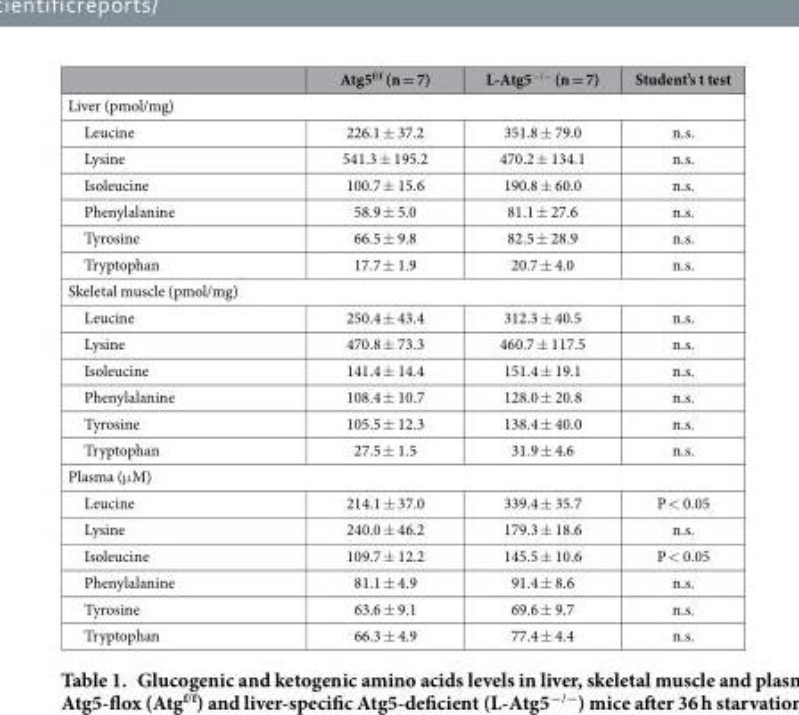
<table><thead><tr><td></td><td>Atg5<sup>f/f</sup> (n = 7)</td><td>L-Atg5<sup>−/−</sup> (n = 7)</td><td>Student’s t test</td></tr></thead><tbody><tr><td colspan="4">Liver (pmol/mg)</td></tr><tr><td>Leucine</td><td>226.1 ± 37.2</td><td>351.8 ± 79.0</td><td>n.s.</td></tr><tr><td>Lysine</td><td>541.3 ± 195.2</td><td>470.2 ± 134.1</td><td>n.s.</td></tr><tr><td>Isoleucine</td><td>100.7 ± 15.6</td><td>190.8 ± 60.0</td><td>n.s.</td></tr><tr><td>Phenylalanine</td><td>58.9 ± 5.0</td><td>81.1 ± 27.6</td><td>n.s.</td></tr><tr><td>Tyrosine</td><td>66.5 ± 9.8</td><td>82.5 ± 28.9</td><td>n.s.</td></tr><tr><td>Tryptophan</td><td>17.7 ± 1.9</td><td>20.7 ± 4.0</td><td>n.s.</td></tr><tr><td colspan="4">Skeletal muscle (pmol/mg)</td></tr><tr><td>Leucine</td><td>250.4 ± 43.4</td><td>312.3 ± 40.5</td><td>n.s.</td></tr><tr><td>Lysine</td><td>470.8 ± 73.3</td><td>460.7 ± 117.5</td><td>n.s.</td></tr><tr><td>Isoleucine</td><td>141.4 ± 14.4</td><td>151.4 ± 19.1</td><td>n.s.</td></tr><tr><td>Phenylalanine</td><td>108.4 ± 10.7</td><td>128.0 ± 20.8</td><td>n.s.</td></tr><tr><td>Tyrosine</td><td>105.5 ± 12.3</td><td>138.4 ± 40.0</td><td>n.s.</td></tr><tr><td>Tryptophan</td><td>27.5 ± 1.5</td><td>31.9 ± 4.6</td><td>n.s.</td></tr><tr><td colspan="4">Plasma (μ M)</td></tr><tr><td>Leucine</td><td>214.1 ± 37.0</td><td>339.4 ± 35.7</td><td>P &lt; 0.05</td></tr><tr><td>Lysine</td><td>240.0 ± 46.2</td><td>179.3 ± 18.6</td><td>n.s.</td></tr><tr><td>Isoleucine</td><td>109.7 ± 12.2</td><td>145.5 ± 10.6</td><td>P &lt; 0.05</td></tr><tr><td>Phenylalanine</td><td>81.1 ± 4.9</td><td>91.4 ± 8.6</td><td>n.s.</td></tr><tr><td>Tyrosine</td><td>63.6 ± 9.1</td><td>69.6 ± 9.7</td><td>n.s.</td></tr><tr><td>Tryptophan</td><td>66.3 ± 4.9</td><td>77.4 ± 4.4</td><td>n.s.</td></tr></tbody></table>